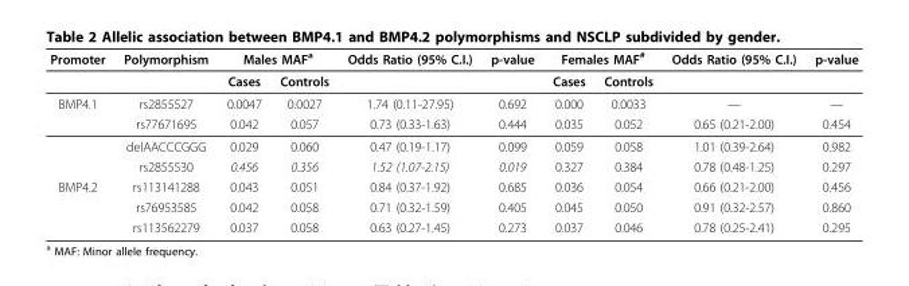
<table><thead><tr><td rowspan="2">Promoter</td><td rowspan="2">Polymorphism</td><td colspan="2">Males MAF<sup>a</sup></td><td rowspan="2">Odds Ratio (95% C.I.)</td><td rowspan="2">p-value</td><td colspan="2">Females MAF<sup>#</sup></td><td rowspan="2">Odds Ratio (95% C.I.)</td><td rowspan="2">p-value</td></tr><tr><td>Cases</td><td>Controls</td><td>Cases</td><td>Controls</td></tr></thead><tbody><tr><td rowspan="4">BMP4.1</td><td>rs2855527</td><td>0.0047</td><td>0.0027</td><td>1.74 (0.11-27.95)</td><td>0.692</td><td>0.000</td><td>0.0033</td><td>—</td><td>—</td></tr><tr><td>rs77671695</td><td>0.042</td><td>0.057</td><td>0.73 (0.33-1.63)</td><td>0.444</td><td>0.035</td><td>0.052</td><td>0.65 (0.21-2.00)</td><td>0.454</td></tr><tr><td>delAACCCGGG</td><td>0.029</td><td>0.060</td><td>0.47 (0.19-1.17)</td><td>0.099</td><td>0.059</td><td>0.058</td><td>1.01 (0.39-2.64)</td><td>0.982</td></tr><tr><td>rs2855530</td><td>0.456</td><td>0.356</td><td>1.52 (1.07-2.15)</td><td>0.019</td><td>0.327</td><td>0.384</td><td>0.78 (0.48-1.25)</td><td>0.297</td></tr><tr><td rowspan="3">BMP4.2</td><td>rs113141288</td><td>0.043</td><td>0.051</td><td>0.84 (0.37-1.92)</td><td>0.685</td><td>0.036</td><td>0.054</td><td>0.66 (0.21-2.00)</td><td>0.456</td></tr><tr><td>rs76953585</td><td>0.042</td><td>0.058</td><td>0.71 (0.32-1.59)</td><td>0.405</td><td>0.045</td><td>0.050</td><td>0.91 (0.32-2.57)</td><td>0.860</td></tr><tr><td>rs113562279</td><td>0.037</td><td>0.058</td><td>0.63 (0.27-1.45)</td><td>0.273</td><td>0.037</td><td>0.046</td><td>0.78 (0.25-2.41)</td><td>0.295</td></tr></tbody></table>